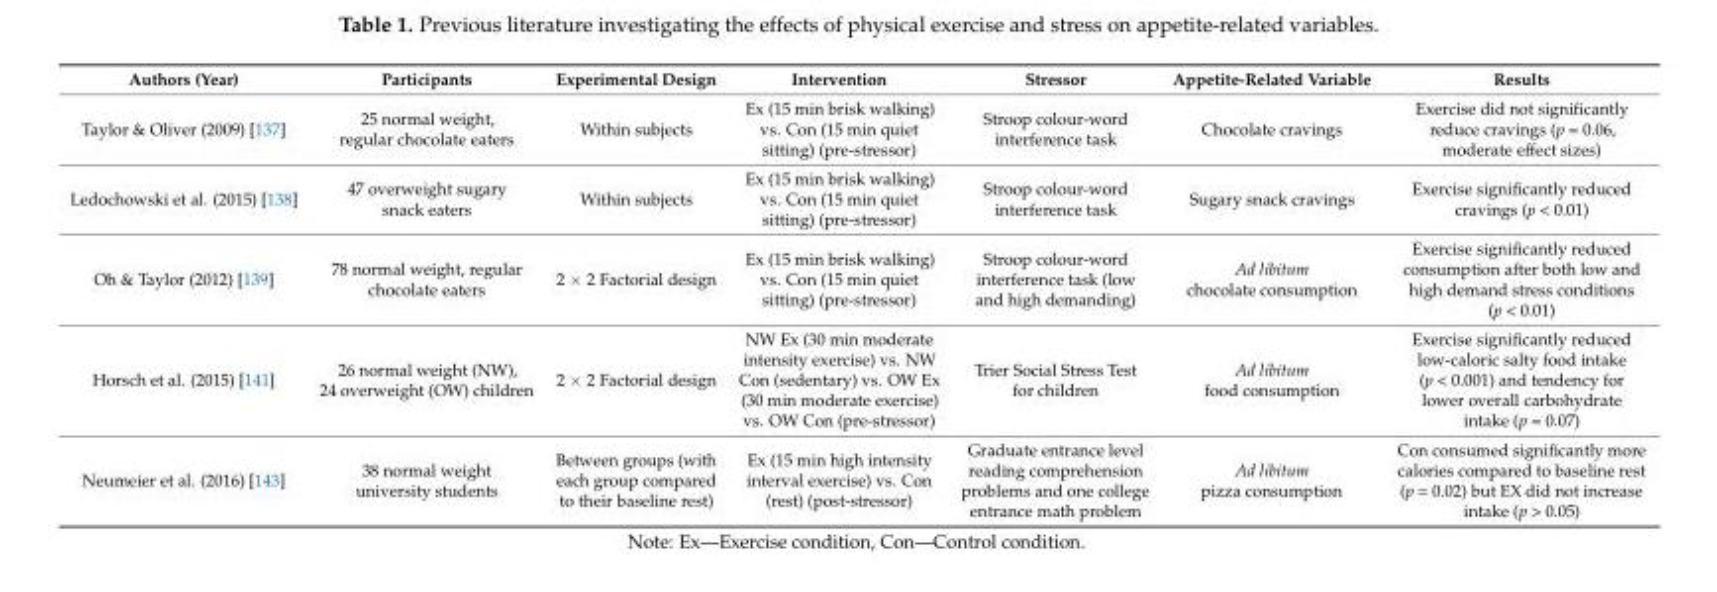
<table><thead><tr><td>Authors (Year)</td><td>Participants</td><td>Experimental Design</td><td>Intervention</td><td>Stressor</td><td>Appetite-Related Variable</td><td>Results</td></tr></thead><tbody><tr><td>Taylor &amp; Oliver (2009) [137]</td><td>25 normal weight, regular chocolate eaters</td><td>Within subjects</td><td>Ex (15 min brisk walking) vs. Con (15 min quiet sitting) (pre-stressor)</td><td>Stroop colour-word interference task</td><td>Chocolate cravings</td><td>Exercise did not significantly reduce cravings (p = 0.06, moderate effect sizes)</td></tr><tr><td>Ledochowski et al. (2015) [138]</td><td>47 overweight sugary snack eaters</td><td>Within subjects</td><td>Ex (15 min brisk walking) vs. Con (15 min quiet sitting) (pre-stressor)</td><td>Stroop colour-word interference task</td><td>Sugary snack cravings</td><td>Exercise significantly reduced cravings (p &lt; 0.01)</td></tr><tr><td>Oh &amp; Taylor (2012) [139]</td><td>78 normal weight, regular chocolate eaters</td><td>2 × 2 Factorial design</td><td>Ex (15 min brisk walking) vs. Con (15 min quiet sitting) (pre-stressor)</td><td>Stroop colour-word interference task (low and high demanding)</td><td>Ad libitum chocolate consumption</td><td>Exercise significantly reduced consumption after both low and high demand stress conditions (p &lt; 0.01)</td></tr><tr><td>Horsch et al. (2015) [141]</td><td>26 normal weight (NW), 24 overweight (OW) children</td><td>2 × 2 Factorial design</td><td>NW Ex (30 min moderate intensity exercise) vs. NW Con (sedentary) vs. OW Ex (30 min moderate exercise) vs. OW Con (pre-stressor)</td><td>Trier Social Stress Test for children</td><td>Ad libitum food consumption</td><td>Exercise significantly reduced low-caloric salty food intake (p &lt; 0.001) and tendency for lower overall carbohydrate intake (p = 0.07)</td></tr><tr><td>Neumeier et al. (2016) [143]</td><td>38 normal weight university students</td><td>Between groups (with each group compared to their baseline rest)</td><td>Ex (15 min high intensity interval exercise) vs. Con (rest) (post-stressor)</td><td>Graduate entrance level reading comprehension problems and one college entrance math problem</td><td>Ad libitum pizza consumption</td><td>Con consumed significantly more calories compared to baseline rest (p = 0.02) but EX did not increase intake (p &gt; 0.05)</td></tr></tbody></table>